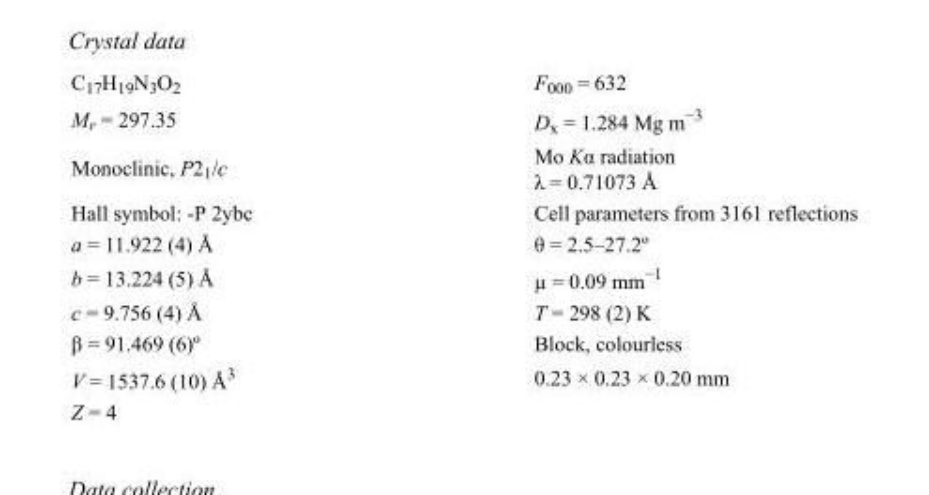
<table><tbody><tr><td>C<sub>17</sub>H<sub>19</sub>N<sub>3</sub>O<sub>2</sub></td><td>F000 = 632</td></tr><tr><td>M<sub>r</sub> = 297.35</td><td>D<sub>x</sub> = 1.284 Mg m<sup>−3</sup></td></tr><tr><td>Monoclinic, P2<sub>1</sub>/c</td><td>Mo Kα radiation λ = 0.71073 Å</td></tr><tr><td>Hall symbol: -P 2ybc</td><td>Cell parameters from 3161 reflections</td></tr><tr><td>a = 11.922 (4) Å</td><td>θ = 2.5–27.2º</td></tr><tr><td>b = 13.224 (5) Å</td><td>µ = 0.09 mm<sup>−1</sup></td></tr><tr><td>c = 9.756 (4) Å</td><td>T = 298 (2) K</td></tr><tr><td>β = 91.469 (6)º</td><td>Block, colourless</td></tr><tr><td>V = 1537.6 (10) Å<sup>3</sup></td><td>0.23 × 0.23 × 0.20 mm</td></tr><tr><td>Z = 4</td><td></td></tr></tbody></table>